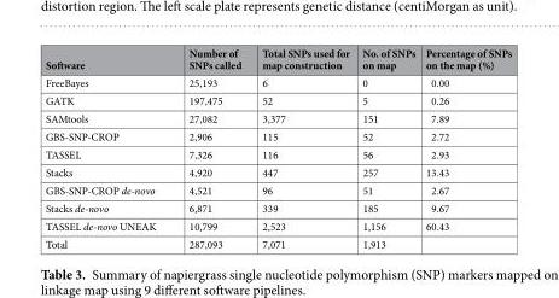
<table><thead><tr><td>Software</td><td>Number of SNPs called</td><td>Total SNPs used for map construction</td><td>No. of SNPs on map</td><td>Percentage of SNPs on the map (%)</td></tr></thead><tbody><tr><td>FreeBayes</td><td>25,193</td><td>6</td><td>0</td><td>0.00</td></tr><tr><td>GATK</td><td>197,475</td><td>52</td><td>5</td><td>0.26</td></tr><tr><td>SAMtools</td><td>27,082</td><td>3,377</td><td>151</td><td>7.89</td></tr><tr><td>GBS-SNP-CROP</td><td>2,906</td><td>115</td><td>52</td><td>2.72</td></tr><tr><td>TASSEL</td><td>7,326</td><td>116</td><td>56</td><td>2.93</td></tr><tr><td>Stacks</td><td>4,920</td><td>447</td><td>257</td><td>13.43</td></tr><tr><td>GBS-SNP-CROP de-novo</td><td>4,521</td><td>96</td><td>51</td><td>2.67</td></tr><tr><td>Stacks de-novo</td><td>6,871</td><td>339</td><td>185</td><td>9.67</td></tr><tr><td>TASSEL de-novo UNEAK</td><td>10,799</td><td>2,523</td><td>1,156</td><td>60.43</td></tr><tr><td>Total</td><td>287,093</td><td>7,071</td><td>1,913</td><td></td></tr></tbody></table>